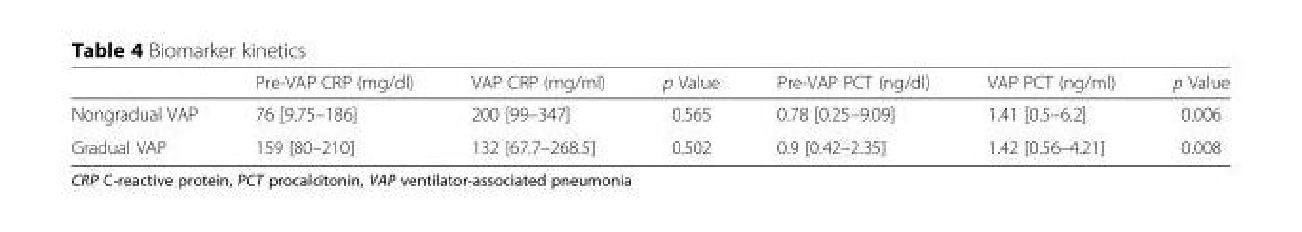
<table><thead><tr><td></td><td>Pre-VAP CRP (mg/dl)</td><td>VAP CRP (mg/ml)</td><td>p Value</td><td>Pre-VAP PCT (ng/dl)</td><td>VAP PCT (ng/ml)</td><td>p Value</td></tr></thead><tbody><tr><td>Nongradual VAP</td><td>76 [9.75–186]</td><td>200 [99–347]</td><td>0.565</td><td>0.78 [0.25–9.09]</td><td>1.41 [0.5–6.2]</td><td>0.006</td></tr><tr><td>Gradual VAP</td><td>159 [80–210]</td><td>132 [67.7–268.5]</td><td>0.502</td><td>0.9 [0.42–2.35]</td><td>1.42 [0.56–4.21]</td><td>0.008</td></tr></tbody></table>